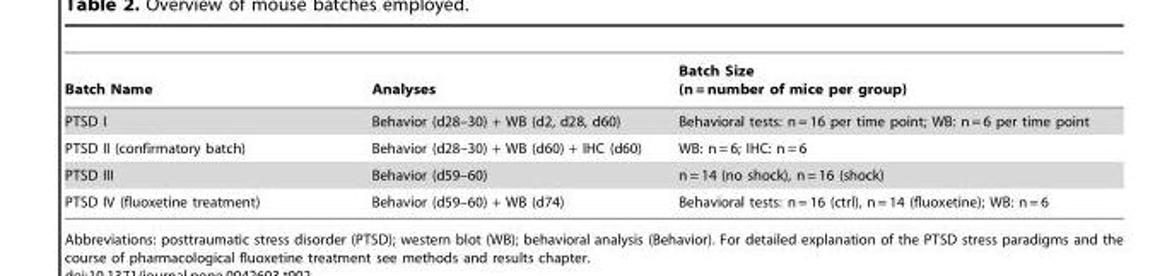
<table><thead><tr><td>Batch Name</td><td>Analyses</td><td>Batch Size (n = number of mice per group)</td></tr></thead><tbody><tr><td>PTSD I</td><td>Behavior (d28–30) + WB (d2, d28, d60)</td><td>Behavioral tests: n = 16 per time point; WB: n = 6 per time point</td></tr><tr><td>PTSD II (confirmatory batch)</td><td>Behavior (d28–30) + WB (d60) + IHC (d60)</td><td>WB: n = 6; IHC: n = 6</td></tr><tr><td>PTSD III</td><td>Behavior (d59–60)</td><td>n = 14 (no shock), n = 16 (shock)</td></tr><tr><td>PTSD IV (fluoxetine treatment)</td><td>Behavior (d59–60) + WB (d74)</td><td>Behavioral tests: n = 16 (ctrl), n = 14 (fluoxetine); WB: n = 6</td></tr></tbody></table>